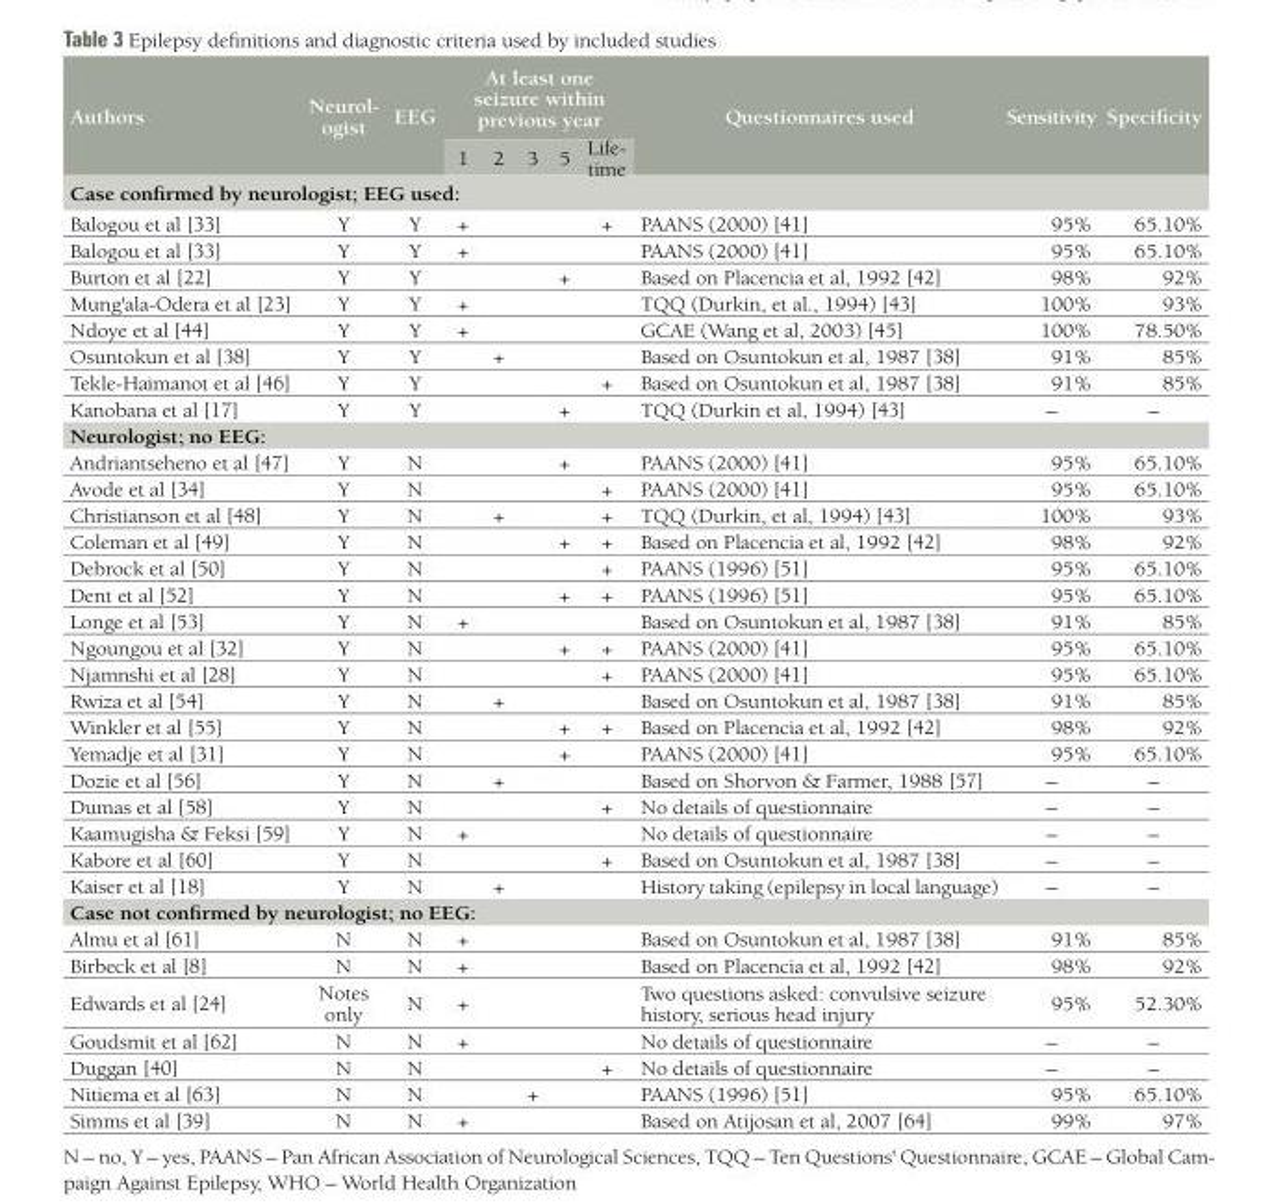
<table><tbody><tr><td rowspan="2">Authors</td><td rowspan="2">Neurol- ogist</td><td rowspan="2">EEG</td><td colspan="5">At least one seizure within previous year</td><td rowspan="2">Questionnaires used</td><td rowspan="2">Sensitivity</td><td rowspan="2">Specificity</td></tr><tr><td>1</td><td>2</td><td>3</td><td>5</td><td>Life- time</td></tr><tr><td colspan="11">Case confirmed by neurologist; EEG used:</td></tr><tr><td>Balogou et al [33]</td><td>Y</td><td>Y</td><td>+</td><td></td><td></td><td></td><td>+</td><td>PAANS (2000) [41]</td><td>95%</td><td>65.10%</td></tr><tr><td>Balogou et al [33]</td><td>Y</td><td>Y</td><td>+</td><td></td><td></td><td></td><td></td><td>PAANS (2000) [41]</td><td>95%</td><td>65.10%</td></tr><tr><td>Burton et al [22]</td><td>Y</td><td>Y</td><td></td><td></td><td></td><td>+</td><td></td><td>Based on Placencia et al, 1992 [42]</td><td>98%</td><td>92%</td></tr><tr><td>Mung&#x27;ala-Odera et al [23]</td><td>Y</td><td>Y</td><td>+</td><td></td><td></td><td></td><td></td><td>TQQ (Durkin, et al., 1994) [43]</td><td>100%</td><td>93%</td></tr><tr><td>Ndoye et al [44]</td><td>Y</td><td>Y</td><td>+</td><td></td><td></td><td></td><td></td><td>GCAE (Wang et al, 2003) [45]</td><td>100%</td><td>78.50%</td></tr><tr><td>Osuntokun et al [38]</td><td>Y</td><td>Y</td><td></td><td>+</td><td></td><td></td><td></td><td>Based on Osuntokun et al, 1987 [38]</td><td>91%</td><td>85%</td></tr><tr><td>Tekle-Haimanot et al [46]</td><td>Y</td><td>Y</td><td></td><td></td><td></td><td></td><td>+</td><td>Based on Osuntokun et al, 1987 [38]</td><td>91%</td><td>85%</td></tr><tr><td>Kanobana et al [17]</td><td>Y</td><td>Y</td><td></td><td></td><td></td><td>+</td><td></td><td>TQQ (Durkin et al, 1994) [43]</td><td>–</td><td>–</td></tr><tr><td colspan="11">Neurologist; no EEG:</td></tr><tr><td>Andriantseheno et al [47]</td><td>Y</td><td>N</td><td></td><td></td><td></td><td>+</td><td></td><td>PAANS (2000) [41]</td><td>95%</td><td>65.10%</td></tr><tr><td>Avode et al [34]</td><td>Y</td><td>N</td><td></td><td></td><td></td><td></td><td>+</td><td>PAANS (2000) [41]</td><td>95%</td><td>65.10%</td></tr><tr><td>Christianson et al [48]</td><td>Y</td><td>N</td><td></td><td>+</td><td></td><td></td><td>+</td><td>TQQ (Durkin, et al, 1994) [43]</td><td>100%</td><td>93%</td></tr><tr><td>Coleman et al [49]</td><td>Y</td><td>N</td><td></td><td></td><td></td><td>+</td><td>+</td><td>Based on Placencia et al, 1992 [42]</td><td>98%</td><td>92%</td></tr><tr><td>Debrock et al [50]</td><td>Y</td><td>N</td><td></td><td></td><td></td><td></td><td>+</td><td>PAANS (1996) [51]</td><td>95%</td><td>65.10%</td></tr><tr><td>Dent et al [52]</td><td>Y</td><td>N</td><td></td><td></td><td></td><td>+</td><td>+</td><td>PAANS (1996) [51]</td><td>95%</td><td>65.10%</td></tr><tr><td>Longe et al [53]</td><td>Y</td><td>N</td><td>+</td><td></td><td></td><td></td><td></td><td>Based on Osuntokun et al, 1987 [38]</td><td>91%</td><td>85%</td></tr><tr><td>Ngoungou et al [32]</td><td>Y</td><td>N</td><td></td><td></td><td></td><td>+</td><td>+</td><td>PAANS (2000) [41]</td><td>95%</td><td>65.10%</td></tr><tr><td>Njamnshi et al [28]</td><td>Y</td><td>N</td><td></td><td></td><td></td><td></td><td>+</td><td>PAANS (2000) [41]</td><td>95%</td><td>65.10%</td></tr><tr><td>Rwiza et al [54]</td><td>Y</td><td>N</td><td></td><td>+</td><td></td><td></td><td></td><td>Based on Osuntokun et al, 1987 [38]</td><td>91%</td><td>85%</td></tr><tr><td>Winkler et al [55]</td><td>Y</td><td>N</td><td></td><td></td><td></td><td>+</td><td>+</td><td>Based on Placencia et al, 1992 [42]</td><td>98%</td><td>92%</td></tr><tr><td>Yemadje et al [31]</td><td>Y</td><td>N</td><td></td><td></td><td></td><td>+</td><td></td><td>PAANS (2000) [41]</td><td>95%</td><td>65.10%</td></tr><tr><td>Dozie et al [56]</td><td>Y</td><td>N</td><td></td><td>+</td><td></td><td></td><td></td><td>Based on Shorvon &amp; Farmer, 1988 [57]</td><td>–</td><td>–</td></tr><tr><td>Dumas et al [58]</td><td>Y</td><td>N</td><td></td><td></td><td></td><td></td><td>+</td><td>No details of questionnaire</td><td>–</td><td>–</td></tr><tr><td>Kaamugisha &amp; Feksi [59]</td><td>Y</td><td>N</td><td>+</td><td></td><td></td><td></td><td></td><td>No details of questionnaire</td><td>–</td><td>–</td></tr><tr><td>Kabore et al [60]</td><td>Y</td><td>N</td><td></td><td></td><td></td><td></td><td>+</td><td>Based on Osuntokun et al, 1987 [38]</td><td>–</td><td>–</td></tr><tr><td>Kaiser et al [18]</td><td>Y</td><td>N</td><td></td><td>+</td><td></td><td></td><td></td><td>History taking (epilepsy in local language)</td><td>–</td><td>–</td></tr><tr><td colspan="11">Case not confirmed by neurologist; no EEG:</td></tr><tr><td>Almu et al [61]</td><td>N</td><td>N</td><td>+</td><td></td><td></td><td></td><td></td><td>Based on Osuntokun et al, 1987 [38]</td><td>91%</td><td>85%</td></tr><tr><td>Birbeck et al [8]</td><td>N</td><td>N</td><td>+</td><td></td><td></td><td></td><td></td><td>Based on Placencia et al, 1992 [42]</td><td>98%</td><td>92%</td></tr><tr><td>Edwards et al [24]</td><td>Notes only</td><td>N</td><td>+</td><td></td><td></td><td></td><td></td><td>Two questions asked: convulsive seizure history, serious head injury</td><td>95%</td><td>52.30%</td></tr><tr><td>Goudsmit et al [62]</td><td>N</td><td>N</td><td>+</td><td></td><td></td><td></td><td></td><td>No details of questionnaire</td><td>–</td><td>–</td></tr><tr><td>Duggan [40]</td><td>N</td><td>N</td><td></td><td></td><td></td><td></td><td>+</td><td>No details of questionnaire</td><td>–</td><td>–</td></tr><tr><td>Nitiema et al [63]</td><td>N</td><td>N</td><td></td><td></td><td>+</td><td></td><td></td><td>PAANS (1996) [51]</td><td>95%</td><td>65.10%</td></tr><tr><td>Simms et al [39]</td><td>N</td><td>N</td><td>+</td><td></td><td></td><td></td><td></td><td>Based on Atijosan et al, 2007 [64]</td><td>99%</td><td>97%</td></tr></tbody></table>